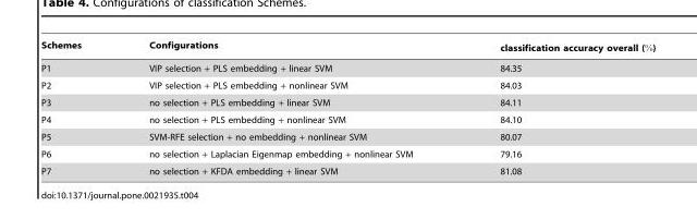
<table><thead><tr><td>Schemes</td><td>Configurations</td><td>classification accuracy overall (%)</td></tr></thead><tbody><tr><td>P1</td><td>VIP selection + PLS embedding + linear SVM</td><td>84.35</td></tr><tr><td>P2</td><td>VIP selection + PLS embedding + nonlinear SVM</td><td>84.03</td></tr><tr><td>P3</td><td>no selection + PLS embedding + linear SVM</td><td>84.11</td></tr><tr><td>P4</td><td>no selection + PLS embedding + nonlinear SVM</td><td>84.10</td></tr><tr><td>P5</td><td>SVM-RFE selection + no embedding + nonlinear SVM</td><td>80.07</td></tr><tr><td>P6</td><td>no selection + Laplacian Eigenmap embedding + nonlinear SVM</td><td>79.16</td></tr><tr><td>P7</td><td>no selection + KFDA embedding + linear SVM</td><td>81.08</td></tr></tbody></table>